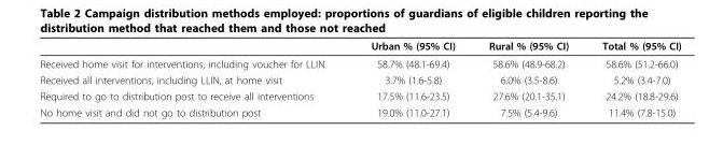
<table><thead><tr><td></td><td>Urban % (95% CI)</td><td>Rural % (95% CI)</td><td>Total % (95% CI)</td></tr></thead><tbody><tr><td>Received home visit for interventions, including voucher for LLIN</td><td>58.7% (48.1-69.4)</td><td>58.6% (48.9-68.2)</td><td>58.6% (51.2-66.0)</td></tr><tr><td>Received all interventions, including LLIN, at home visit</td><td>3.7% (1.6-5.8)</td><td>6.0% (3.5-8.6)</td><td>5.2% (3.4-7.0)</td></tr><tr><td>Required to go to distribution post to receive all interventions</td><td>17.5% (11.6-23.5)</td><td>27.6% (20.1-35.1)</td><td>24.2% (18.8-29.6)</td></tr><tr><td>No home visit and did not go to distribution post</td><td>19.0% (11.0-27.1)</td><td>7.5% (5.4-9.6)</td><td>11.4% (7.8-15.0)</td></tr></tbody></table>